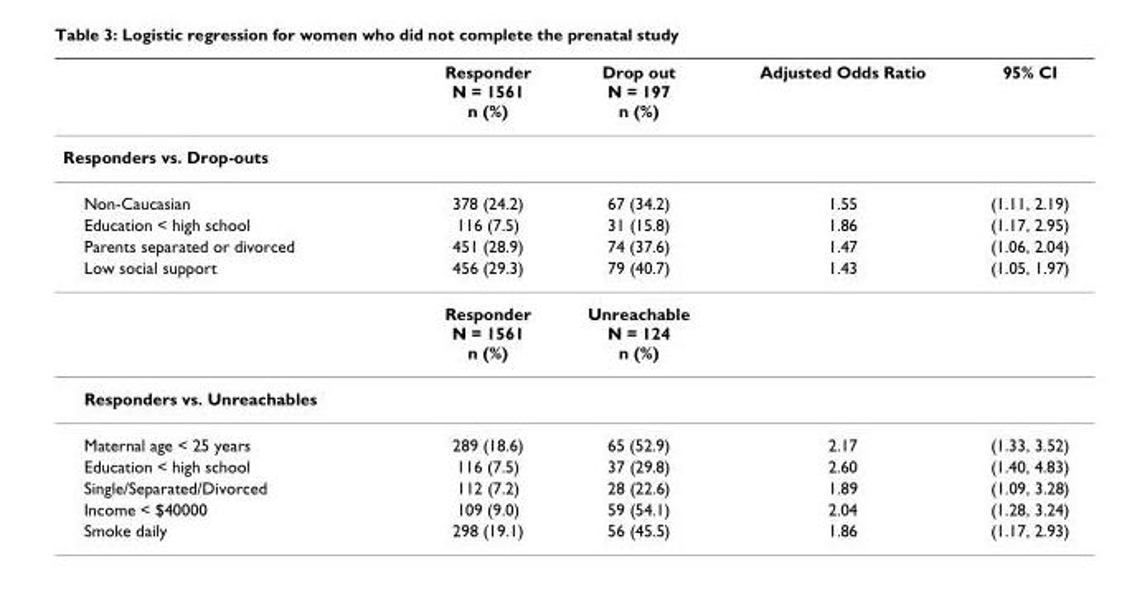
<table><thead><tr><td></td><td>Responder N = 1561 n (%)</td><td>Drop out N = 197 n (%)</td><td>Adjusted Odds Ratio</td><td>95% CI</td></tr></thead><tbody><tr><td colspan="5">Responders vs. Drop-outs</td></tr><tr><td>Non-Caucasian</td><td>378 (24.2)</td><td>67 (34.2)</td><td>1.55</td><td>(1.11, 2.19)</td></tr><tr><td>Education &lt; high school</td><td>116 (7.5)</td><td>31 (15.8)</td><td>1.86</td><td>(1.17, 2.95)</td></tr><tr><td>Parents separated or divorced</td><td>451 (28.9)</td><td>74 (37.6)</td><td>1.47</td><td>(1.06, 2.04)</td></tr><tr><td rowspan="2">Low social support</td><td>456 (29.3)</td><td>79 (40.7)</td><td>1.43</td><td>(1.05, 1.97)</td></tr><tr><td>Responder N = 1561 n (%)</td><td>Unreachable N = 124 n (%)</td><td></td><td></td></tr><tr><td colspan="5">Responders vs. Unreachables</td></tr><tr><td>Maternal age &lt; 25 years</td><td>289 (18.6)</td><td>65 (52.9)</td><td>2.17</td><td>(1.33, 3.52)</td></tr><tr><td>Education &lt; high school</td><td>116 (7.5)</td><td>37 (29.8)</td><td>2.60</td><td>(1.40, 4.83)</td></tr><tr><td>Single/Separated/Divorced</td><td>112 (7.2)</td><td>28 (22.6)</td><td>1.89</td><td>(1.09, 3.28)</td></tr><tr><td>Income &lt; $40000</td><td>109 (9.0)</td><td>59 (54.1)</td><td>2.04</td><td>(1.28, 3.24)</td></tr><tr><td>Smoke daily</td><td>298 (19.1)</td><td>56 (45.5)</td><td>1.86</td><td>(1.17, 2.93)</td></tr></tbody></table>